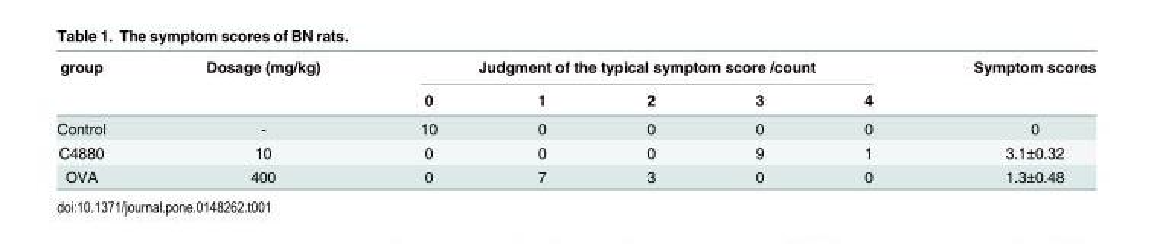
<table><thead><tr><td rowspan="2">group</td><td rowspan="2">Dosage (mg/kg)</td><td colspan="5">Judgment of the typical symptom score /count</td><td rowspan="2">Symptom scores</td></tr><tr><td>0</td><td>1</td><td>2</td><td>3</td><td>4</td></tr></thead><tbody><tr><td>Control</td><td>-</td><td>10</td><td>0</td><td>0</td><td>0</td><td>0</td><td>0</td></tr><tr><td>C4880</td><td>10</td><td>0</td><td>0</td><td>0</td><td>9</td><td>1</td><td>3.1±0.32</td></tr><tr><td>OVA</td><td>400</td><td>0</td><td>7</td><td>3</td><td>0</td><td>0</td><td>1.3±0.48</td></tr></tbody></table>